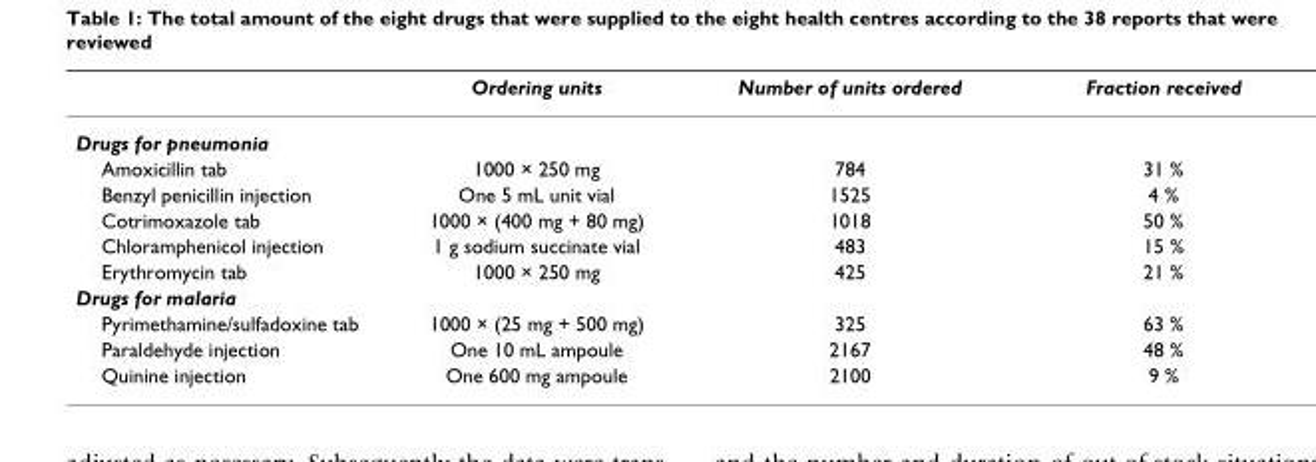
<table><thead><tr><td></td><td>Ordering units</td><td>Number of units ordered</td><td>Fraction received</td></tr></thead><tbody><tr><td colspan="4">Drugs for pneumonia</td></tr><tr><td>Amoxicillin tab</td><td>1000 × 250 mg</td><td>784</td><td>31 %</td></tr><tr><td>Benzyl penicillin injection</td><td>One 5 mL unit vial</td><td>1525</td><td>4 %</td></tr><tr><td>Cotrimoxazole tab</td><td>1000 × (400 mg + 80 mg)</td><td>1018</td><td>50 %</td></tr><tr><td>Chloramphenicol injection</td><td>1 g sodium succinate vial</td><td>483</td><td>15 %</td></tr><tr><td>Erythromycin tab</td><td>1000 × 250 mg</td><td>425</td><td>21 %</td></tr><tr><td colspan="4">Drugs for malaria</td></tr><tr><td>Pyrimethamine/sulfadoxine tab</td><td>1000 × (25 mg + 500 mg)</td><td>325</td><td>63 %</td></tr><tr><td>Paraldehyde injection</td><td>One 10 mL ampoule</td><td>2167</td><td>48 %</td></tr><tr><td>Quinine injection</td><td>One 600 mg ampoule</td><td>2100</td><td>9 %</td></tr></tbody></table>